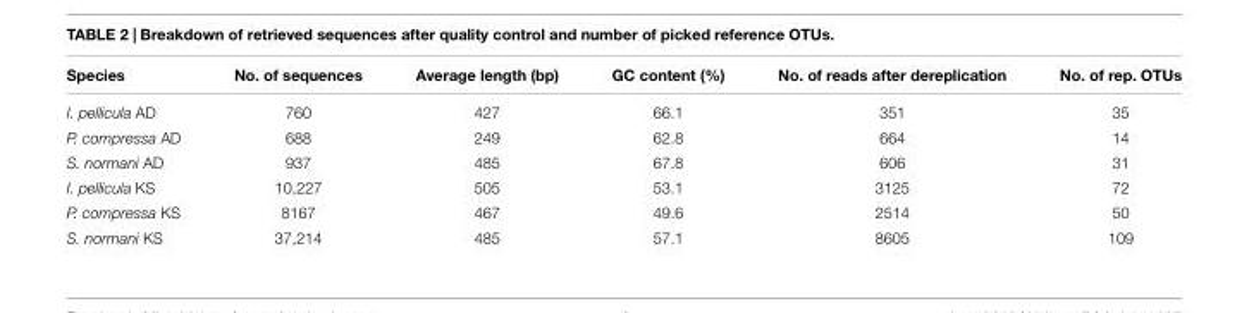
<table><thead><tr><td>Species</td><td>No. of sequences</td><td>Average length (bp)</td><td>GC content (%)</td><td>No. of reads after dereplication</td><td>No. of rep. OTUs</td></tr></thead><tbody><tr><td>I. pellicula AD</td><td>760</td><td>427</td><td>66.1</td><td>351</td><td>35</td></tr><tr><td>P. compressa AD</td><td>688</td><td>249</td><td>62.8</td><td>664</td><td>14</td></tr><tr><td>S. normani AD</td><td>937</td><td>485</td><td>67.8</td><td>606</td><td>31</td></tr><tr><td>I. pellicula KS</td><td>10,227</td><td>505</td><td>53.1</td><td>3125</td><td>72</td></tr><tr><td>P. compressa KS</td><td>8167</td><td>467</td><td>49.6</td><td>2514</td><td>50</td></tr><tr><td>S. normani KS</td><td>37,214</td><td>485</td><td>57.1</td><td>8605</td><td>109</td></tr></tbody></table>